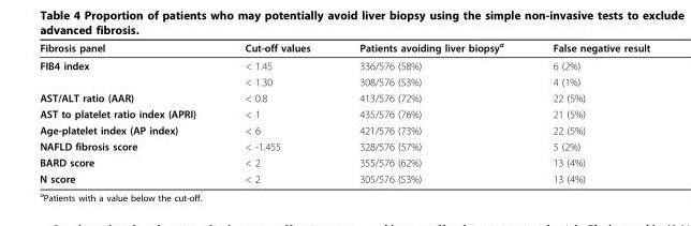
<table><thead><tr><td>Fibrosis panel</td><td>Cut-off values</td><td>Patients avoiding liver biopsy<sup>a</sup></td><td>False negative result</td></tr></thead><tbody><tr><td rowspan="2">FIB4 index</td><td>&lt; 1.45</td><td>336/576 (58%)</td><td>6 (2%)</td></tr><tr><td>&lt; 1.30</td><td>308/576 (53%)</td><td>4 (1%)</td></tr><tr><td>AST/ALT ratio (AAR)</td><td>&lt; 0.8</td><td>413/576 (72%)</td><td>22 (5%)</td></tr><tr><td>AST to platelet ratio index (APRI)</td><td>&lt; 1</td><td>435/576 (76%)</td><td>21 (5%)</td></tr><tr><td>Age-platelet index (AP index)</td><td>&lt; 6</td><td>421/576 (73%)</td><td>22 (5%)</td></tr><tr><td>NAFLD fibrosis score</td><td>&lt; -1.455</td><td>328/576 (57%)</td><td>5 (2%)</td></tr><tr><td>BARD score</td><td>&lt; 2</td><td>355/576 (62%)</td><td>13 (4%)</td></tr><tr><td>N score</td><td>&lt; 2</td><td>305/576 (53%)</td><td>13 (4%)</td></tr></tbody></table>